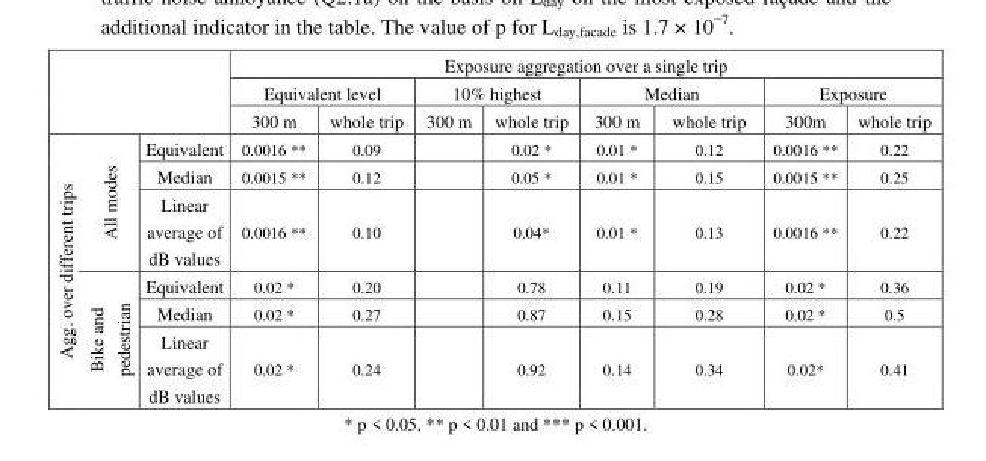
<table><thead><tr><td rowspan="3"></td><td rowspan="3"></td><td rowspan="3"></td><td colspan="8">Exposure aggregation over a single trip</td></tr><tr><td colspan="2">Equivalent level</td><td colspan="2">10% highest</td><td colspan="2">Median</td><td colspan="2">Exposure</td></tr><tr><td>300 m</td><td>whole trip</td><td>300 m</td><td>whole trip</td><td>300 m</td><td>whole trip</td><td>300m</td><td>whole trip</td></tr></thead><tbody><tr><td rowspan="6">Agg. over different trips</td><td rowspan="3">All modes</td><td>Equivalent</td><td>0.0016 **</td><td>0.09</td><td></td><td>0.02 *</td><td>0.01 *</td><td>0.12</td><td>0.0016 **</td><td>0.22</td></tr><tr><td>Median</td><td>0.0015 **</td><td>0.12</td><td></td><td>0.05 *</td><td>0.01 *</td><td>0.15</td><td>0.0015 **</td><td>0.25</td></tr><tr><td>Linear average of dB values</td><td>0.0016 **</td><td>0.10</td><td></td><td>0.04*</td><td>0.01 *</td><td>0.13</td><td>0.0016 **</td><td>0.22</td></tr><tr><td rowspan="3">Bike and pedestrian</td><td>Equivalent</td><td>0.02 *</td><td>0.20</td><td></td><td>0.78</td><td>0.11</td><td>0.19</td><td>0.02 *</td><td>0.36</td></tr><tr><td>Median</td><td>0.02 *</td><td>0.27</td><td></td><td>0.87</td><td>0.15</td><td>0.28</td><td>0.02 *</td><td>0.5</td></tr><tr><td>Linear average of dB values</td><td>0.02 *</td><td>0.24</td><td></td><td>0.92</td><td>0.14</td><td>0.34</td><td>0.02*</td><td>0.41</td></tr></tbody></table>